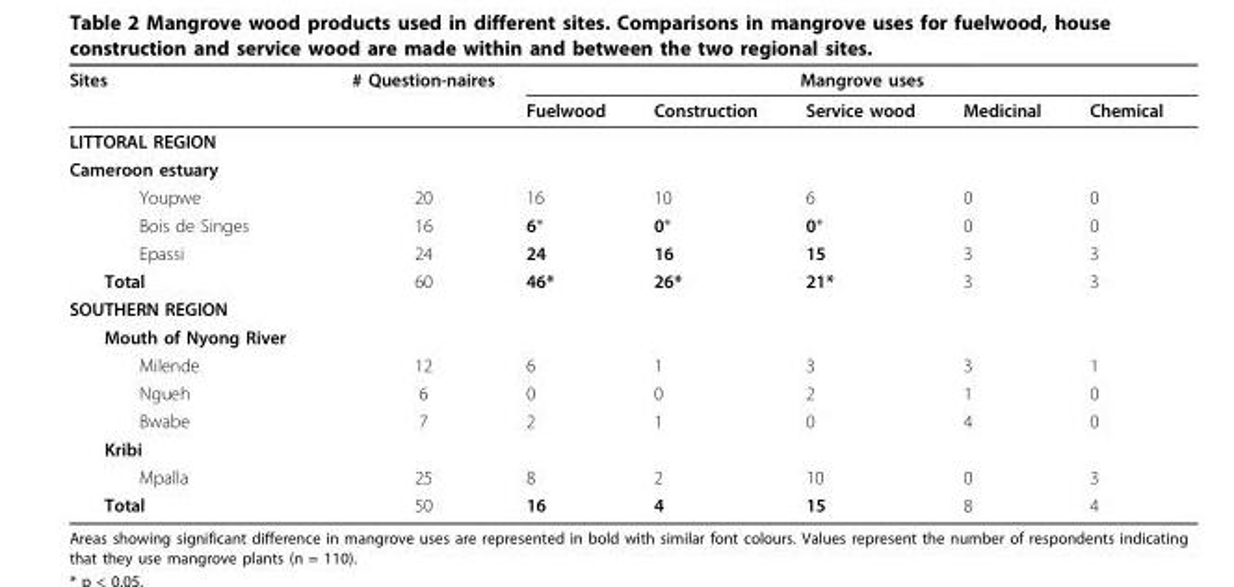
<table><thead><tr><td rowspan="2">Sites</td><td rowspan="2"># Question-naires</td><td colspan="5">Mangrove uses</td></tr><tr><td>Fuelwood</td><td>Construction</td><td>Service wood</td><td>Medicinal</td><td>Chemical</td></tr></thead><tbody><tr><td colspan="7">LITTORAL REGION</td></tr><tr><td colspan="7">Cameroon estuary</td></tr><tr><td>Youpwe</td><td>20</td><td>16</td><td>10</td><td>6</td><td>0</td><td>0</td></tr><tr><td>Bois de Singes</td><td>16</td><td>6*</td><td>0*</td><td>0*</td><td>0</td><td>0</td></tr><tr><td>Epassi</td><td>24</td><td>24</td><td>16</td><td>15</td><td>3</td><td>3</td></tr><tr><td>Total</td><td>60</td><td>46*</td><td>26*</td><td>21*</td><td>3</td><td>3</td></tr><tr><td colspan="7">SOUTHERN REGION</td></tr><tr><td colspan="7">Mouth of Nyong River</td></tr><tr><td>Milende</td><td>12</td><td>6</td><td>1</td><td>3</td><td>3</td><td>1</td></tr><tr><td>Ngueh</td><td>6</td><td>0</td><td>0</td><td>2</td><td>1</td><td>0</td></tr><tr><td>Bwabe</td><td>7</td><td>2</td><td>1</td><td>0</td><td>4</td><td>0</td></tr><tr><td colspan="7">Kribi</td></tr><tr><td>Mpalla</td><td>25</td><td>8</td><td>2</td><td>10</td><td>0</td><td>3</td></tr><tr><td>Total</td><td>50</td><td>16</td><td>4</td><td>15</td><td>8</td><td>4</td></tr></tbody></table>